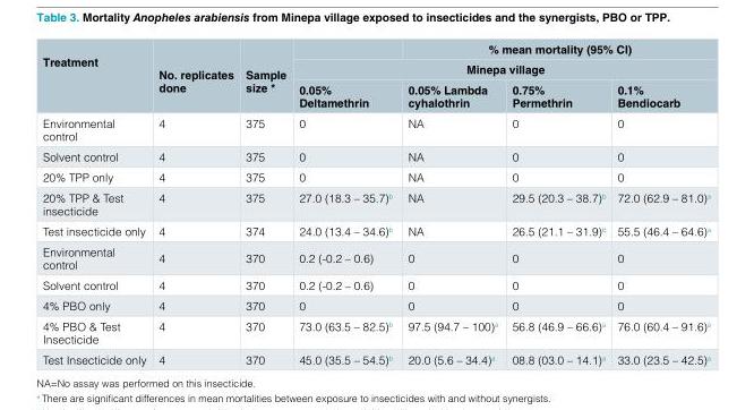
<table><thead><tr><td rowspan="3">Treatment</td><td rowspan="3">No. replicates done</td><td rowspan="3">Sample size *</td><td></td><td colspan="3">% mean mortality (95% CI)</td></tr><tr><td colspan="4">Minepa village</td></tr><tr><td>0.05% Deltamethrin</td><td>0.05% Lambda cyhalothrin</td><td>0.75% Permethrin</td><td>0.1% Bendiocarb</td></tr></thead><tbody><tr><td>Environmental control</td><td>4</td><td>375</td><td>0</td><td>NA</td><td>0</td><td>0</td></tr><tr><td>Solvent control</td><td>4</td><td>375</td><td>0</td><td>NA</td><td>0</td><td>0</td></tr><tr><td>20% TPP only</td><td>4</td><td>375</td><td>0</td><td>NA</td><td>0</td><td>0</td></tr><tr><td>20% TPP &amp; Test insecticide</td><td>4</td><td>375</td><td>27.0 (18.3 – 35.7)<sup>b</sup></td><td>NA</td><td>29.5 (20.3 – 38.7)<sup>b</sup></td><td>72.0 (62.9 – 81.0)<sup>a</sup></td></tr><tr><td>Test insecticide only</td><td>4</td><td>374</td><td>24.0 (13.4 – 34.6)<sup>b</sup></td><td>NA</td><td>26.5 (21.1 – 31.9)<sup>b</sup></td><td>55.5 (46.4 – 64.6)<sup>a</sup></td></tr><tr><td>Environmental control</td><td>4</td><td>370</td><td>0.2 (-0.2 – 0.6)</td><td>0</td><td>0</td><td>0</td></tr><tr><td>Solvent control</td><td>4</td><td>370</td><td>0.2 (-0.2 – 0.6)</td><td>0</td><td>0</td><td>0</td></tr><tr><td>4% PBO only</td><td>4</td><td>370</td><td>0</td><td>0</td><td>0</td><td>0</td></tr><tr><td>4% PBO &amp; Test Insecticide</td><td>4</td><td>370</td><td>73.0 (63.5 – 82.5)<sup>b</sup></td><td>97.5 (94.7 – 100)<sup>a</sup></td><td>56.8 (46.9 – 66.6)<sup>a</sup></td><td>76.0 (60.4 – 91.6)<sup>a</sup></td></tr><tr><td>Test Insecticide only</td><td>4</td><td>370</td><td>45.0 (35.5 – 54.5)<sup>b</sup></td><td>20.0 (5.6 – 34.4)<sup>a</sup></td><td>08.8 (03.0 – 14.1)<sup>a</sup></td><td>33.0 (23.5 – 42.5)<sup>a</sup></td></tr></tbody></table>